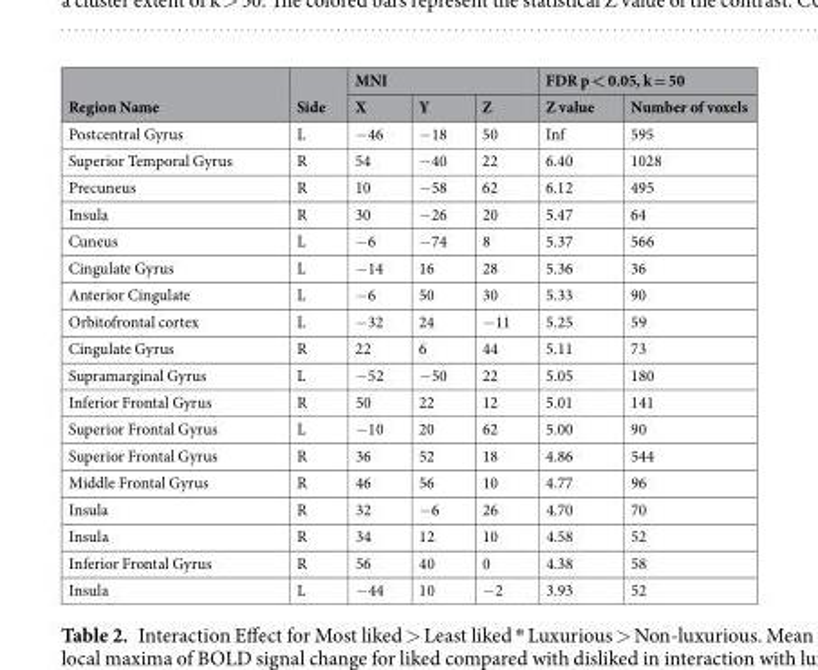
<table><thead><tr><td rowspan="2">Region Name</td><td rowspan="2">Side</td><td colspan="3">MNI</td><td colspan="2">FDR p &lt; 0.05, k = 50</td></tr><tr><td>X</td><td>Y</td><td>Z</td><td>Z value</td><td>Number of voxels</td></tr></thead><tbody><tr><td>Postcentral Gyrus</td><td>L</td><td>−46</td><td>−18</td><td>50</td><td>Inf</td><td>595</td></tr><tr><td>Superior Temporal Gyrus</td><td>R</td><td>54</td><td>−40</td><td>22</td><td>6.40</td><td>1028</td></tr><tr><td>Precuneus</td><td>R</td><td>10</td><td>−58</td><td>62</td><td>6.12</td><td>495</td></tr><tr><td>Insula</td><td>R</td><td>30</td><td>−26</td><td>20</td><td>5.47</td><td>64</td></tr><tr><td>Cuneus</td><td>L</td><td>−6</td><td>−74</td><td>8</td><td>5.37</td><td>566</td></tr><tr><td>Cingulate Gyrus</td><td>L</td><td>−14</td><td>16</td><td>28</td><td>5.36</td><td>36</td></tr><tr><td>Anterior Cingulate</td><td>L</td><td>−6</td><td>50</td><td>30</td><td>5.33</td><td>90</td></tr><tr><td>Orbitofrontal cortex</td><td>L</td><td>−32</td><td>24</td><td>−11</td><td>5.25</td><td>59</td></tr><tr><td>Cingulate Gyrus</td><td>R</td><td>22</td><td>6</td><td>44</td><td>5.11</td><td>73</td></tr><tr><td>Supramarginal Gyrus</td><td>L</td><td>−52</td><td>−50</td><td>22</td><td>5.05</td><td>180</td></tr><tr><td>Inferior Frontal Gyrus</td><td>R</td><td>50</td><td>22</td><td>12</td><td>5.01</td><td>141</td></tr><tr><td>Superior Frontal Gyrus</td><td>L</td><td>−10</td><td>20</td><td>62</td><td>5.00</td><td>90</td></tr><tr><td>Superior Frontal Gyrus</td><td>R</td><td>36</td><td>52</td><td>18</td><td>4.86</td><td>544</td></tr><tr><td>Middle Frontal Gyrus</td><td>R</td><td>46</td><td>56</td><td>10</td><td>4.77</td><td>96</td></tr><tr><td>Insula</td><td>R</td><td>32</td><td>−6</td><td>26</td><td>4.70</td><td>70</td></tr><tr><td>Insula</td><td>R</td><td>34</td><td>12</td><td>10</td><td>4.58</td><td>52</td></tr><tr><td>Inferior Frontal Gyrus</td><td>R</td><td>56</td><td>40</td><td>0</td><td>4.38</td><td>58</td></tr><tr><td>Insula</td><td>L</td><td>−44</td><td>10</td><td>−2</td><td>3.93</td><td>52</td></tr></tbody></table>